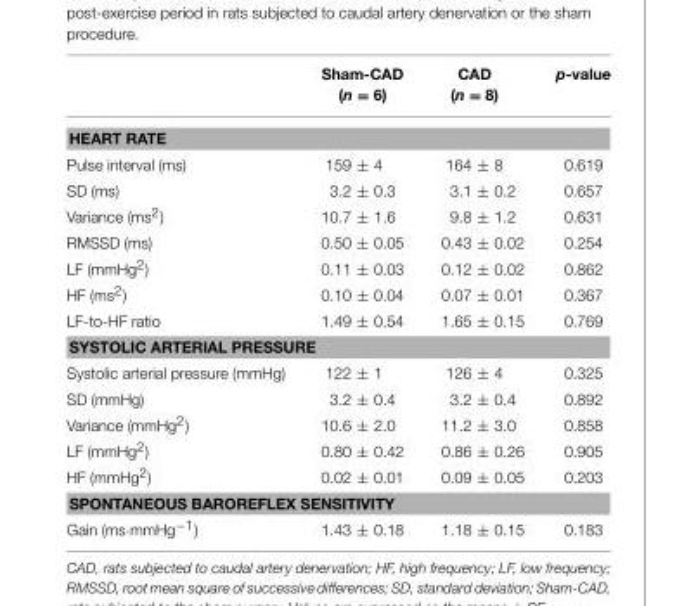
<table><thead><tr><td></td><td>Sham-CAD (n = 6)</td><td>CAD (n = 8)</td><td>p-value</td></tr></thead><tbody><tr><td colspan="4">HEART RATE</td></tr><tr><td>Pulse interval (ms)</td><td>159 ± 4</td><td>164 ± 8</td><td>0.619</td></tr><tr><td>SD (ms)</td><td>3.2 ± 0.3</td><td>3.1 ± 0.2</td><td>0.657</td></tr><tr><td>Variance (ms<sup>2</sup>)</td><td>10.7 ± 1.6</td><td>9.8 ± 1.2</td><td>0.631</td></tr><tr><td>RMSSD (ms)</td><td>0.50 ± 0.05</td><td>0.43 ± 0.02</td><td>0.254</td></tr><tr><td>LF (mmHg<sup>2</sup>)</td><td>0.11 ± 0.03</td><td>0.12 ± 0.02</td><td>0.862</td></tr><tr><td>HF (ms<sup>2</sup>)</td><td>0.10 ± 0.04</td><td>0.07 ± 0.01</td><td>0.367</td></tr><tr><td>LF-to-HF ratio</td><td>1.49 ± 0.54</td><td>1.65 ± 0.15</td><td>0.769</td></tr><tr><td colspan="4">SYSTOLIC ARTERIAL PRESSURE</td></tr><tr><td>Systolic arterial pressure (mmHg)</td><td>122 ± 1</td><td>126 ± 4</td><td>0.325</td></tr><tr><td>SD (mmHg)</td><td>3.2 ± 0.4</td><td>3.2 ± 0.4</td><td>0.892</td></tr><tr><td>Variance (mmHg<sup>2</sup>)</td><td>10.6 ± 2.0</td><td>11.2 ± 3.0</td><td>0.858</td></tr><tr><td>LF (mmHg<sup>2</sup>)</td><td>0.80 ± 0.42</td><td>0.86 ± 0.26</td><td>0.905</td></tr><tr><td>HF (mmHg<sup>2</sup>)</td><td>0.02 ± 0.01</td><td>0.09 ± 0.05</td><td>0.203</td></tr><tr><td colspan="4">SPONTANEOUS BAROREFLEX SENSITIVITY</td></tr><tr><td>Gain (ms·mmHg<sup>−1</sup>)</td><td>1.43 ± 0.18</td><td>1.18 ± 0.15</td><td>0.183</td></tr></tbody></table>